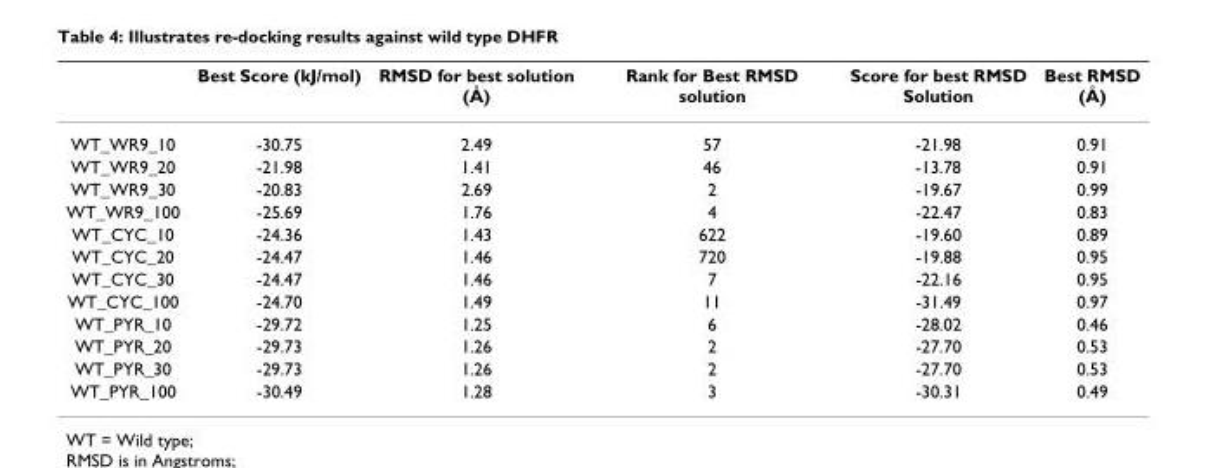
<table><thead><tr><td></td><td>Best Score (kJ/mol)</td><td>RMSD for best solution (Å)</td><td>Rank for Best RMSD solution</td><td>Score for best RMSD Solution</td><td>Best RMSD (Å)</td></tr></thead><tbody><tr><td>WT_WR9_10</td><td>-30.75</td><td>2.49</td><td>57</td><td>-21.98</td><td>0.91</td></tr><tr><td>WT_WR9_20</td><td>-21.98</td><td>1.41</td><td>46</td><td>-13.78</td><td>0.91</td></tr><tr><td>WT_WR9_30</td><td>-20.83</td><td>2.69</td><td>2</td><td>-19.67</td><td>0.99</td></tr><tr><td>WT_WR9_100</td><td>-25.69</td><td>1.76</td><td>4</td><td>-22.47</td><td>0.83</td></tr><tr><td>WT_CYC_10</td><td>-24.36</td><td>1.43</td><td>622</td><td>-19.60</td><td>0.89</td></tr><tr><td>WT_CYC_20</td><td>-24.47</td><td>1.46</td><td>720</td><td>-19.88</td><td>0.95</td></tr><tr><td>WT_CYC_30</td><td>-24.47</td><td>1.46</td><td>7</td><td>-22.16</td><td>0.95</td></tr><tr><td>WT_CYC_100</td><td>-24.70</td><td>1.49</td><td>11</td><td>-31.49</td><td>0.97</td></tr><tr><td>WT_PYR_10</td><td>-29.72</td><td>1.25</td><td>6</td><td>-28.02</td><td>0.46</td></tr><tr><td>WT_PYR_20</td><td>-29.73</td><td>1.26</td><td>2</td><td>-27.70</td><td>0.53</td></tr><tr><td>WT_PYR_30</td><td>-29.73</td><td>1.26</td><td>2</td><td>-27.70</td><td>0.53</td></tr><tr><td>WT_PYR_100</td><td>-30.49</td><td>1.28</td><td>3</td><td>-30.31</td><td>0.49</td></tr></tbody></table>